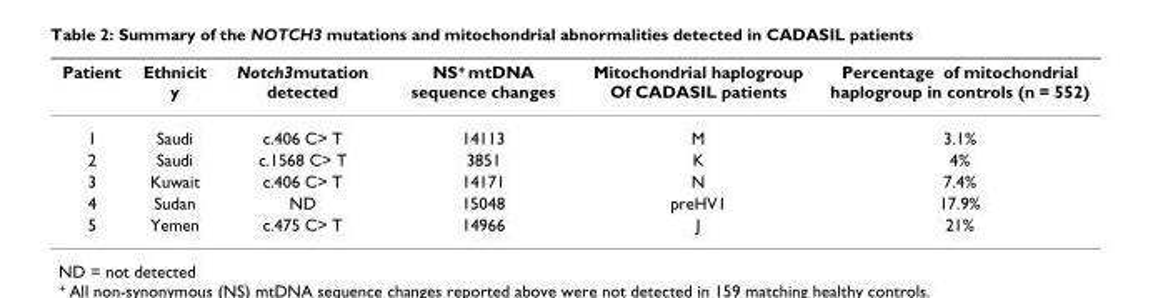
<table><thead><tr><td>Patient</td><td>Ethnicit y</td><td>Notch3mutation detected</td><td>NS<sup>+</sup> mtDNA sequence changes</td><td>Mitochondrial haplogroup Of CADASIL patients</td><td>Percentage of mitochondrial haplogroup in controls (n = 552)</td></tr></thead><tbody><tr><td>1</td><td>Saudi</td><td>c.406 C&gt; T</td><td>14113</td><td>M</td><td>3.1%</td></tr><tr><td>2</td><td>Saudi</td><td>c.1568 C&gt; T</td><td>3851</td><td>K</td><td>4%</td></tr><tr><td>3</td><td>Kuwait</td><td>c.406 C&gt; T</td><td>14171</td><td>N</td><td>7.4%</td></tr><tr><td>4</td><td>Sudan</td><td>ND</td><td>15048</td><td>preHV1</td><td>17.9%</td></tr><tr><td>5</td><td>Yemen</td><td>c.475 C&gt; T</td><td>14966</td><td>J</td><td>21%</td></tr></tbody></table>